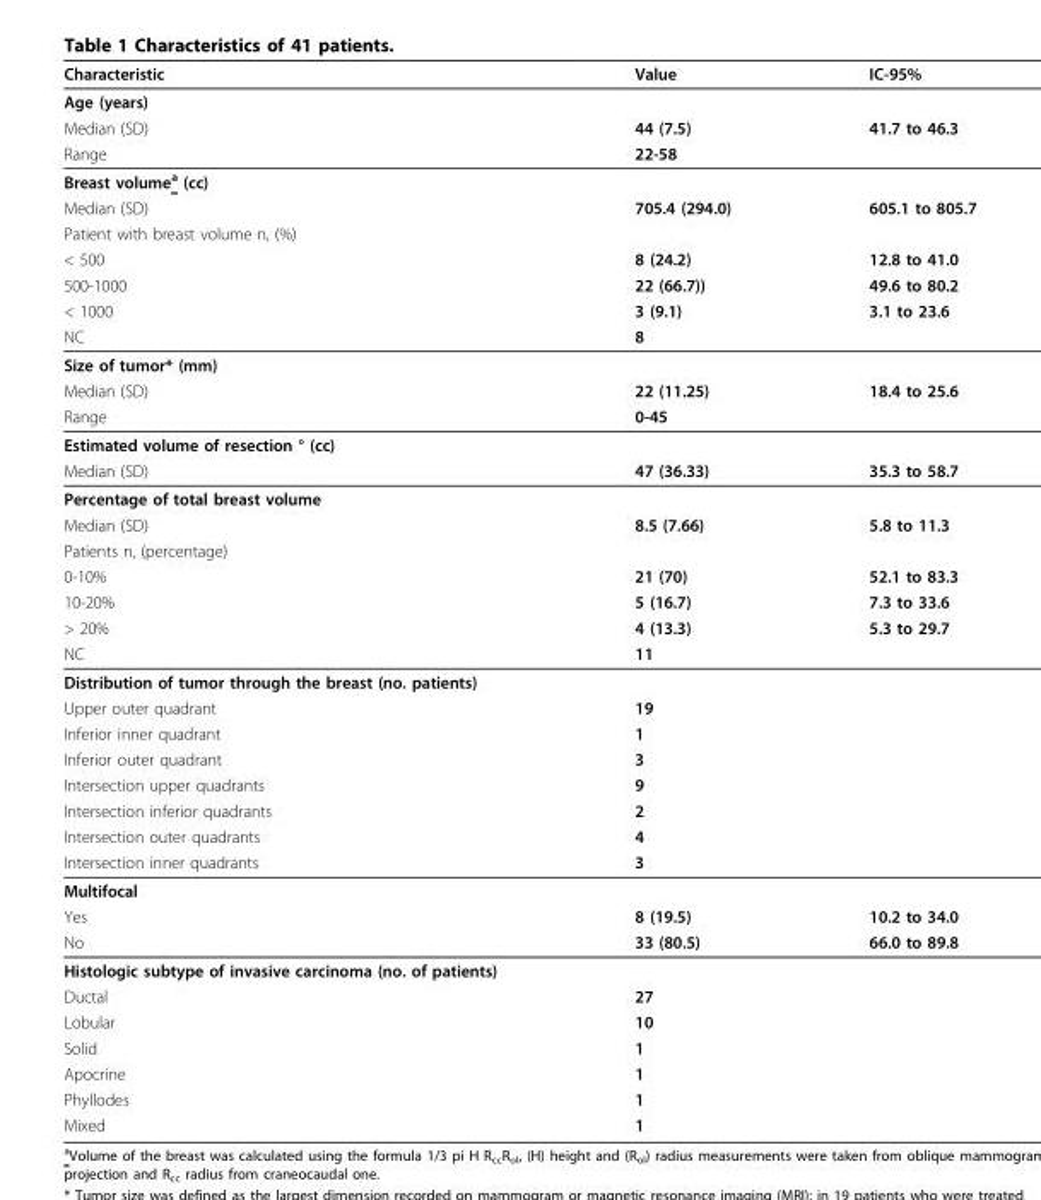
<table><thead><tr><td>Characteristic</td><td>Value</td><td>IC-95%</td></tr></thead><tbody><tr><td colspan="3">Age (years)</td></tr><tr><td>Median (SD)</td><td>44 (7.5)</td><td>41.7 to 46.3</td></tr><tr><td>Range</td><td>22-58</td><td></td></tr><tr><td colspan="3">Breast volume<sup>a</sup> (cc)</td></tr><tr><td>Median (SD)</td><td>705.4 (294.0)</td><td>605.1 to 805.7</td></tr><tr><td colspan="3">Patient with breast volume n, (%)</td></tr><tr><td>&lt; 500</td><td>8 (24.2)</td><td>12.8 to 41.0</td></tr><tr><td>500-1000</td><td>22 (66.7))</td><td>49.6 to 80.2</td></tr><tr><td>&lt; 1000</td><td>3 (9.1)</td><td>3.1 to 23.6</td></tr><tr><td>NC</td><td>8</td><td></td></tr><tr><td colspan="3">Size of tumor* (mm)</td></tr><tr><td>Median (SD)</td><td>22 (11.25)</td><td>18.4 to 25.6</td></tr><tr><td>Range</td><td>0-45</td><td></td></tr><tr><td colspan="3">Estimated volume of resection ° (cc)</td></tr><tr><td>Median (SD)</td><td>47 (36.33)</td><td>35.3 to 58.7</td></tr><tr><td colspan="3">Percentage of total breast volume</td></tr><tr><td>Median (SD)</td><td>8.5 (7.66)</td><td>5.8 to 11.3</td></tr><tr><td colspan="3">Patients n, (percentage)</td></tr><tr><td>0-10%</td><td>21 (70)</td><td>52.1 to 83.3</td></tr><tr><td>10-20%</td><td>5 (16.7)</td><td>7.3 to 33.6</td></tr><tr><td>&gt; 20%</td><td>4 (13.3)</td><td>5.3 to 29.7</td></tr><tr><td>NC</td><td>11</td><td></td></tr><tr><td colspan="3">Distribution of tumor through the breast (no. patients)</td></tr><tr><td>Upper outer quadrant</td><td>19</td><td></td></tr><tr><td>Inferior inner quadrant</td><td>1</td><td></td></tr><tr><td>Inferior outer quadrant</td><td>3</td><td></td></tr><tr><td>Intersection upper quadrants</td><td>9</td><td></td></tr><tr><td>Intersection inferior quadrants</td><td>2</td><td></td></tr><tr><td>Intersection outer quadrants</td><td>4</td><td></td></tr><tr><td>Intersection inner quadrants</td><td>3</td><td></td></tr><tr><td colspan="3">Multifocal</td></tr><tr><td>Yes</td><td>8 (19.5)</td><td>10.2 to 34.0</td></tr><tr><td>No</td><td>33 (80.5)</td><td>66.0 to 89.8</td></tr><tr><td colspan="3">Histologic subtype of invasive carcinoma (no. of patients)</td></tr><tr><td>Ductal</td><td>27</td><td></td></tr><tr><td>Lobular</td><td>10</td><td></td></tr><tr><td>Solid</td><td>1</td><td></td></tr><tr><td>Apocrine</td><td>1</td><td></td></tr><tr><td>Phyllodes</td><td>1</td><td></td></tr><tr><td>Mixed</td><td>1</td><td></td></tr></tbody></table>